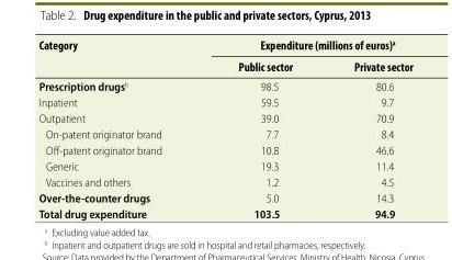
<table><thead><tr><td rowspan="2">Category</td><td colspan="2">Expenditure (millions of euros)<sup>a</sup></td></tr><tr><td>Public sector</td><td>Private sector</td></tr></thead><tbody><tr><td>Prescription drugs<sup>b</sup></td><td>98.5</td><td>80.6</td></tr><tr><td>Inpatient</td><td>59.5</td><td>9.7</td></tr><tr><td>Outpatient</td><td>39.0</td><td>70.9</td></tr><tr><td>On-patent originator brand</td><td>7.7</td><td>8.4</td></tr><tr><td>Off-patent originator brand</td><td>10.8</td><td>46.6</td></tr><tr><td>Generic</td><td>19.3</td><td>11.4</td></tr><tr><td>Vaccines and others</td><td>1.2</td><td>4.5</td></tr><tr><td>Over-the-counter drugs</td><td>5.0</td><td>14.3</td></tr><tr><td>Total drug expenditure</td><td>103.5</td><td>94.9</td></tr></tbody></table>